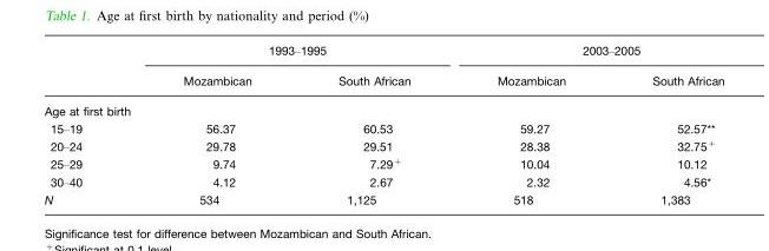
<table><thead><tr><td rowspan="2"></td><td colspan="2">1993–1995</td><td colspan="2">2003–2005</td></tr><tr><td>Mozambican</td><td>South African</td><td>Mozambican</td><td>South African</td></tr></thead><tbody><tr><td colspan="5">Age at first birth</td></tr><tr><td>15–19</td><td>56.37</td><td>60.53</td><td>59.27</td><td>52.57**</td></tr><tr><td>20–24</td><td>29.78</td><td>29.51</td><td>28.38</td><td>32.75+</td></tr><tr><td>25–29</td><td>9.74</td><td>7.29+</td><td>10.04</td><td>10.12</td></tr><tr><td>30–40</td><td>4.12</td><td>2.67</td><td>2.32</td><td>4.56*</td></tr><tr><td>N</td><td>534</td><td>1,125</td><td>518</td><td>1,383</td></tr></tbody></table>